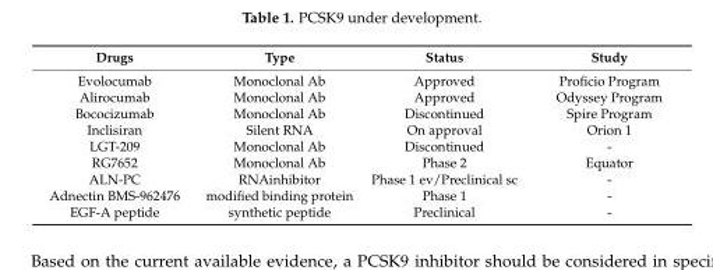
<table><thead><tr><td>Drugs</td><td>Type</td><td>Status</td><td>Study</td></tr></thead><tbody><tr><td>Evolocumab</td><td>Monoclonal Ab</td><td>Approved</td><td>Proficio Program</td></tr><tr><td>Alirocumab</td><td>Monoclonal Ab</td><td>Approved</td><td>Odyssey Program</td></tr><tr><td>Bococizumab</td><td>Monoclonal Ab</td><td>Discontinued</td><td>Spire Program</td></tr><tr><td>Inclisiran</td><td>Silent RNA</td><td>On approval</td><td>Orion 1</td></tr><tr><td>LGT-209</td><td>Monoclonal Ab</td><td>Discontinued</td><td>-</td></tr><tr><td>RG7652</td><td>Monoclonal Ab</td><td>Phase 2</td><td>Equator</td></tr><tr><td>ALN-PC</td><td>RNAinhibitor</td><td>Phase 1 ev/Preclinical sc</td><td>-</td></tr><tr><td>Adnectin BMS-962476</td><td>modified binding protein</td><td>Phase 1</td><td>-</td></tr><tr><td>EGF-A peptide</td><td>synthetic peptide</td><td>Preclinical</td><td>-</td></tr></tbody></table>